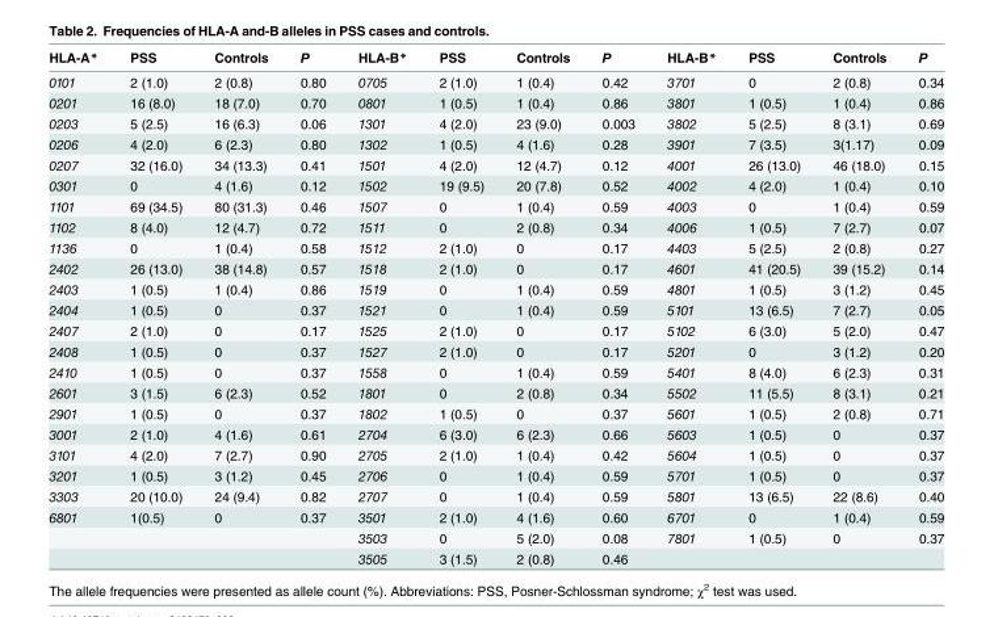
<table><thead><tr><td>HLA-A*</td><td>PSS</td><td>Controls</td><td>P</td><td>HLA-B*</td><td>PSS</td><td>Controls</td><td>P</td><td>HLA-B*</td><td>PSS</td><td>Controls</td><td>P</td></tr></thead><tbody><tr><td>0101</td><td>2 (1.0)</td><td>2 (0.8)</td><td>0.80</td><td>0705</td><td>2 (1.0)</td><td>1 (0.4)</td><td>0.42</td><td>3701</td><td>0</td><td>2 (0.8)</td><td>0.34</td></tr><tr><td>0201</td><td>16 (8.0)</td><td>18 (7.0)</td><td>0.70</td><td>0801</td><td>1 (0.5)</td><td>1 (0.4)</td><td>0.86</td><td>3801</td><td>1 (0.5)</td><td>1 (0.4)</td><td>0.86</td></tr><tr><td>0203</td><td>5 (2.5)</td><td>16 (6.3)</td><td>0.06</td><td>1301</td><td>4 (2.0)</td><td>23 (9.0)</td><td>0.003</td><td>3802</td><td>5 (2.5)</td><td>8 (3.1)</td><td>0.69</td></tr><tr><td>0206</td><td>4 (2.0)</td><td>6 (2.3)</td><td>0.80</td><td>1302</td><td>1 (0.5)</td><td>4 (1.6)</td><td>0.28</td><td>3901</td><td>7 (3.5)</td><td>3(1.17)</td><td>0.09</td></tr><tr><td>0207</td><td>32 (16.0)</td><td>34 (13.3)</td><td>0.41</td><td>1501</td><td>4 (2.0)</td><td>12 (4.7)</td><td>0.12</td><td>4001</td><td>26 (13.0)</td><td>46 (18.0)</td><td>0.15</td></tr><tr><td>0301</td><td>0</td><td>4 (1.6)</td><td>0.12</td><td>1502</td><td>19 (9.5)</td><td>20 (7.8)</td><td>0.52</td><td>4002</td><td>4 (2.0)</td><td>1 (0.4)</td><td>0.10</td></tr><tr><td>1101</td><td>69 (34.5)</td><td>80 (31.3)</td><td>0.46</td><td>1507</td><td>0</td><td>1 (0.4)</td><td>0.59</td><td>4003</td><td>0</td><td>1 (0.4)</td><td>0.59</td></tr><tr><td>1102</td><td>8 (4.0)</td><td>12 (4.7)</td><td>0.72</td><td>1511</td><td>0</td><td>2 (0.8)</td><td>0.34</td><td>4006</td><td>1 (0.5)</td><td>7 (2.7)</td><td>0.07</td></tr><tr><td>1136</td><td>0</td><td>1 (0.4)</td><td>0.58</td><td>1512</td><td>2 (1.0)</td><td>0</td><td>0.17</td><td>4403</td><td>5 (2.5)</td><td>2 (0.8)</td><td>0.27</td></tr><tr><td>2402</td><td>26 (13.0)</td><td>38 (14.8)</td><td>0.57</td><td>1518</td><td>2 (1.0)</td><td>0</td><td>0.17</td><td>4601</td><td>41 (20.5)</td><td>39 (15.2)</td><td>0.14</td></tr><tr><td>2403</td><td>1 (0.5)</td><td>1 (0.4)</td><td>0.86</td><td>1519</td><td>0</td><td>1 (0.4)</td><td>0.59</td><td>4801</td><td>1 (0.5)</td><td>3 (1.2)</td><td>0.45</td></tr><tr><td>2404</td><td>1 (0.5)</td><td>0</td><td>0.37</td><td>1521</td><td>0</td><td>1 (0.4)</td><td>0.59</td><td>5101</td><td>13 (6.5)</td><td>7 (2.7)</td><td>0.05</td></tr><tr><td>2407</td><td>2 (1.0)</td><td>0</td><td>0.17</td><td>1525</td><td>2 (1.0)</td><td>0</td><td>0.17</td><td>5102</td><td>6 (3.0)</td><td>5 (2.0)</td><td>0.47</td></tr><tr><td>2408</td><td>1 (0.5)</td><td>0</td><td>0.37</td><td>1527</td><td>2 (1.0)</td><td>0</td><td>0.17</td><td>5201</td><td>0</td><td>3 (1.2)</td><td>0.20</td></tr><tr><td>2410</td><td>1 (0.5)</td><td>0</td><td>0.37</td><td>1558</td><td>0</td><td>1 (0.4)</td><td>0.59</td><td>5401</td><td>8 (4.0)</td><td>6 (2.3)</td><td>0.31</td></tr><tr><td>2601</td><td>3 (1.5)</td><td>6 (2.3)</td><td>0.52</td><td>1801</td><td>0</td><td>2 (0.8)</td><td>0.34</td><td>5502</td><td>11 (5.5)</td><td>8 (3.1)</td><td>0.21</td></tr><tr><td>2901</td><td>1 (0.5)</td><td>0</td><td>0.37</td><td>1802</td><td>1 (0.5)</td><td>0</td><td>0.37</td><td>5601</td><td>1 (0.5)</td><td>2 (0.8)</td><td>0.71</td></tr><tr><td>3001</td><td>2 (1.0)</td><td>4 (1.6)</td><td>0.61</td><td>2704</td><td>6 (3.0)</td><td>6 (2.3)</td><td>0.66</td><td>5603</td><td>1 (0.5)</td><td>0</td><td>0.37</td></tr><tr><td>3101</td><td>4 (2.0)</td><td>7 (2.7)</td><td>0.90</td><td>2705</td><td>2 (1.0)</td><td>1 (0.4)</td><td>0.42</td><td>5604</td><td>1 (0.5)</td><td>0</td><td>0.37</td></tr><tr><td>3201</td><td>1 (0.5)</td><td>3 (1.2)</td><td>0.45</td><td>2706</td><td>0</td><td>1 (0.4)</td><td>0.59</td><td>5701</td><td>1 (0.5)</td><td>0</td><td>0.37</td></tr><tr><td>3303</td><td>20 (10.0)</td><td>24 (9.4)</td><td>0.82</td><td>2707</td><td>0</td><td>1 (0.4)</td><td>0.59</td><td>5801</td><td>13 (6.5)</td><td>22 (8.6)</td><td>0.40</td></tr><tr><td rowspan="3">6801</td><td>1(0.5)</td><td>0</td><td>0.37</td><td>3501</td><td>2 (1.0)</td><td>4 (1.6)</td><td>0.60</td><td>6701</td><td>0</td><td>1 (0.4)</td><td>0.59</td></tr><tr><td></td><td></td><td></td><td>3503</td><td>0</td><td>5 (2.0)</td><td>0.08</td><td>7801</td><td>1 (0.5)</td><td>0</td><td>0.37</td></tr><tr><td></td><td></td><td></td><td>3505</td><td>3 (1.5)</td><td>2 (0.8)</td><td>0.46</td><td></td><td></td><td></td><td></td></tr></tbody></table>